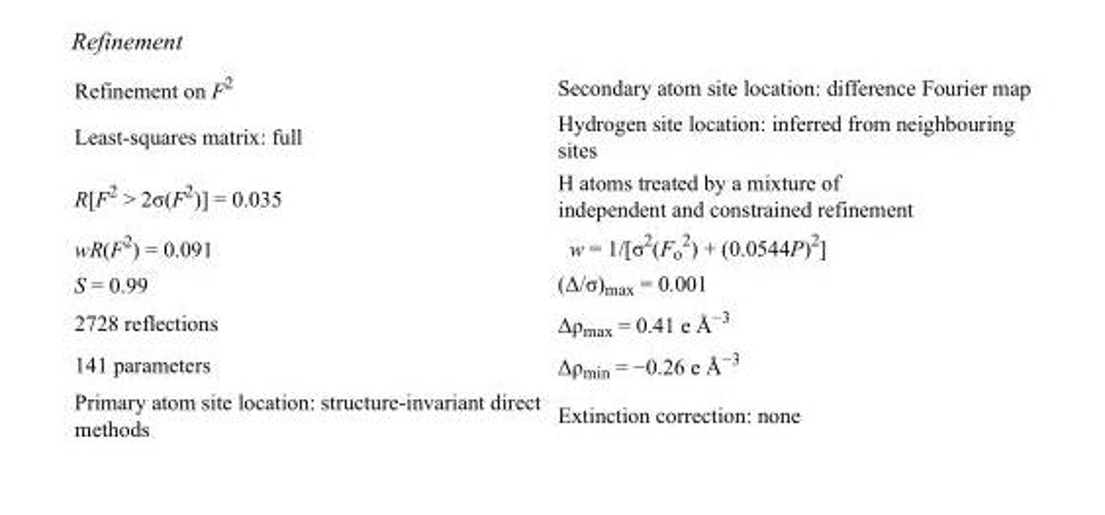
<table><tbody><tr><td>Refinement on F<sup>2</sup></td><td>Secondary atom site location: difference Fourier map</td></tr><tr><td>Least-squares matrix: full</td><td>Hydrogen site location: inferred from neighbouring sites</td></tr><tr><td>R[F<sup>2</sup> &gt; 2σ(F<sup>2</sup>)] = 0.035</td><td>H atoms treated by a mixture of independent and constrained refinement</td></tr><tr><td>wR(F<sup>2</sup>) = 0.091</td><td>w = 1/[σ<sup>2</sup>(F<sub>o</sub> <sup>2</sup>) + (0.0544P)<sup>2</sup>]</td></tr><tr><td>S = 0.99</td><td>(Δ/σ)<sub>max</sub> = 0.001</td></tr><tr><td>2728 reflections</td><td>Δρ<sub>max</sub> = 0.41 e Å<sup>−3</sup></td></tr><tr><td>141 parameters</td><td>Δρ<sub>min</sub> = −0.26 e Å<sup>−3</sup></td></tr><tr><td>Primary atom site location: structure-invariant direct methods</td><td>Extinction correction: none</td></tr></tbody></table>